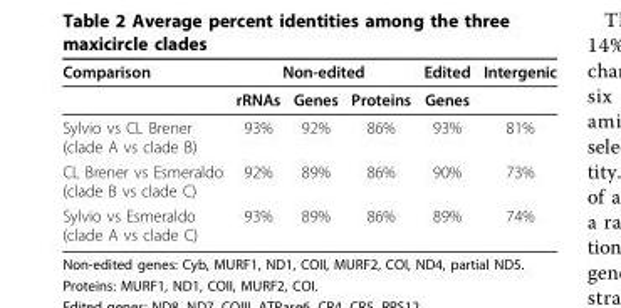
<table><thead><tr><td rowspan="2">Comparison</td><td colspan="3">Non-edited</td><td rowspan="2">Edited Genes</td><td rowspan="2">Intergenic</td></tr><tr><td>rRNAs</td><td>Genes</td><td>Proteins</td></tr></thead><tbody><tr><td>Sylvio vs CL Brener (clade A vs clade B)</td><td>93%</td><td>92%</td><td>86%</td><td>93%</td><td>81%</td></tr><tr><td>CL Brener vs Esmeraldo (clade B vs clade C)</td><td>92%</td><td>89%</td><td>86%</td><td>90%</td><td>73%</td></tr><tr><td>Sylvio vs Esmeraldo (clade A vs clade C)</td><td>93%</td><td>89%</td><td>86%</td><td>89%</td><td>74%</td></tr></tbody></table>